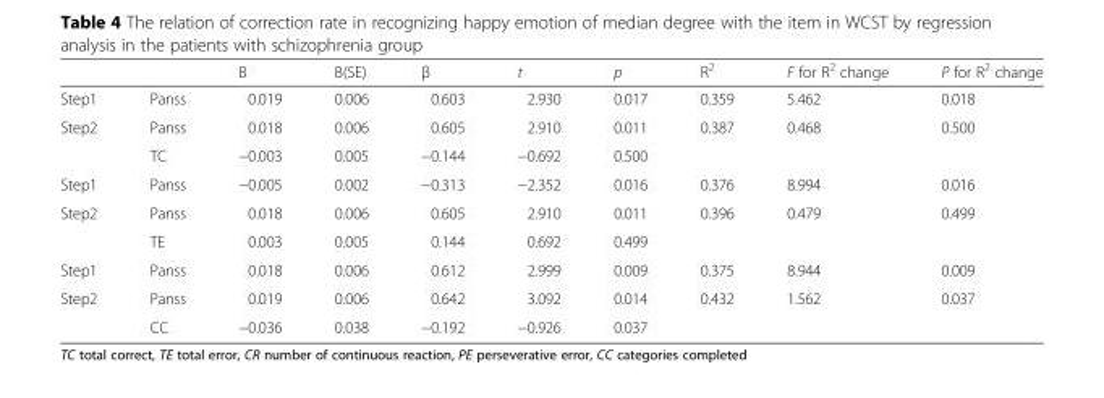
<table><thead><tr><td></td><td></td><td>B</td><td>B(SE)</td><td>β</td><td>t</td><td>p</td><td>R<sup>2</sup></td><td>F for R<sup>2</sup> change</td><td>P for R<sup>2</sup> change</td></tr></thead><tbody><tr><td>Step1</td><td>Panss</td><td>0.019</td><td>0.006</td><td>0.603</td><td>2.930</td><td>0.017</td><td>0.359</td><td>5.462</td><td>0.018</td></tr><tr><td rowspan="2">Step2</td><td>Panss</td><td>0.018</td><td>0.006</td><td>0.605</td><td>2.910</td><td>0.011</td><td rowspan="2">0.387</td><td rowspan="2">0.468</td><td rowspan="2">0.500</td></tr><tr><td>TC</td><td>−0.003</td><td>0.005</td><td>−0.144</td><td>−0.692</td><td>0.500</td></tr><tr><td>Step1</td><td>Panss</td><td>−0.005</td><td>0.002</td><td>−0.313</td><td>−2.352</td><td>0.016</td><td>0.376</td><td>8.994</td><td>0.016</td></tr><tr><td rowspan="2">Step2</td><td>Panss</td><td>0.018</td><td>0.006</td><td>0.605</td><td>2.910</td><td>0.011</td><td>0.396</td><td>0.479</td><td>0.499</td></tr><tr><td>TE</td><td>0.003</td><td>0.005</td><td>0.144</td><td>0.692</td><td>0.499</td><td></td><td></td><td></td></tr><tr><td>Step1</td><td>Panss</td><td>0.018</td><td>0.006</td><td>0.612</td><td>2.999</td><td>0.009</td><td>0.375</td><td>8.944</td><td>0.009</td></tr><tr><td rowspan="2">Step2</td><td>Panss</td><td>0.019</td><td>0.006</td><td>0.642</td><td>3.092</td><td>0.014</td><td>0.432</td><td>1.562</td><td>0.037</td></tr><tr><td>CC</td><td>−0.036</td><td>0.038</td><td>−0.192</td><td>−0.926</td><td>0.037</td><td></td><td></td><td></td></tr></tbody></table>